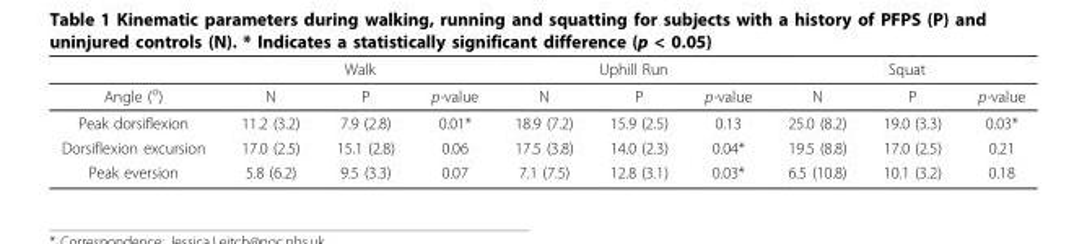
<table><thead><tr><td rowspan="2">Angle (<sup>o</sup>)</td><td colspan="3">Walk</td><td colspan="3">Uphill Run</td><td colspan="3">Squat</td></tr><tr><td>N</td><td>P</td><td>p-value</td><td>N</td><td>P</td><td>p-value</td><td>N</td><td>P</td><td>p-value</td></tr></thead><tbody><tr><td>Peak dorsiflexion</td><td>11.2 (3.2)</td><td>7.9 (2.8)</td><td>0.01*</td><td>18.9 (7.2)</td><td>15.9 (2.5)</td><td>0.13</td><td>25.0 (8.2)</td><td>19.0 (3.3)</td><td>0.03*</td></tr><tr><td>Dorsiflexion excursion</td><td>17.0 (2.5)</td><td>15.1 (2.8)</td><td>0.06</td><td>17.5 (3.8)</td><td>14.0 (2.3)</td><td>0.04*</td><td>19.5 (8.8)</td><td>17.0 (2.5)</td><td>0.21</td></tr><tr><td>Peak eversion</td><td>5.8 (6.2)</td><td>9.5 (3.3)</td><td>0.07</td><td>7.1 (7.5)</td><td>12.8 (3.1)</td><td>0.03*</td><td>6.5 (10.8)</td><td>10.1 (3.2)</td><td>0.18</td></tr></tbody></table>